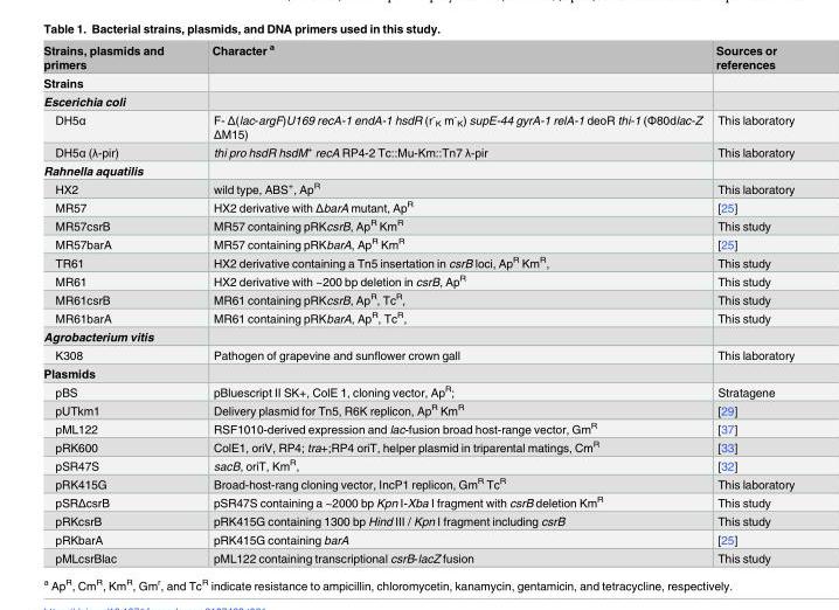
<table><thead><tr><td>Strains, plasmids and primers</td><td>Character <sup>a</sup></td><td>Sources or references</td></tr></thead><tbody><tr><td colspan="3">Strains</td></tr><tr><td colspan="3">Escerichia coli</td></tr><tr><td>DH5α</td><td>F- Δ(lac-argF)U169 recA-1 endA-1 hsdR (r<sup>-</sup> <sub>K</sub> m<sup>-</sup> <sub>K</sub>) supE-44 gyrA-1 relA-1 deoR thi-1 (Φ80dlac-Z ΔM15)</td><td>This laboratory</td></tr><tr><td>DH5α (λ-pir)</td><td>thi pro hsdR hsdM<sup>+</sup> recA RP4-2 Tc::Mu-Km::Tn7 λ-pir</td><td>This laboratory</td></tr><tr><td colspan="3">Rahnella aquatilis</td></tr><tr><td>HX2</td><td>wild type, ABS<sup>+</sup>, Ap<sup>R</sup></td><td>This laboratory</td></tr><tr><td>MR57</td><td>HX2 derivative with ΔbarA mutant, Ap<sup>R</sup></td><td>[25]</td></tr><tr><td>MR57csrB</td><td>MR57 containing pRKcsrB, Ap<sup>R</sup> Km<sup>R</sup></td><td>This study</td></tr><tr><td>MR57barA</td><td>MR57 containing pRKbarA, Ap<sup>R</sup> Km<sup>R</sup></td><td>[25]</td></tr><tr><td>TR61</td><td>HX2 derivative containing a Tn5 insertation in csrB loci, Ap<sup>R</sup> Km<sup>R</sup>,</td><td>This study</td></tr><tr><td>MR61</td><td>HX2 derivative with ~200 bp deletion in csrB, Ap<sup>R</sup></td><td>This study</td></tr><tr><td>MR61csrB</td><td>MR61 containing pRKcsrB, Ap<sup>R</sup>, Tc<sup>R</sup>,</td><td>This study</td></tr><tr><td>MR61barA</td><td>MR61 containing pRKbarA, Ap<sup>R</sup>, Tc<sup>R</sup>,</td><td>This study</td></tr><tr><td colspan="3">Agrobacterium vitis</td></tr><tr><td>K308</td><td>Pathogen of grapevine and sunflower crown gall</td><td>This laboratory</td></tr><tr><td colspan="3">Plasmids</td></tr><tr><td>pBS</td><td>pBluescript II SK+, ColE 1, cloning vector, Ap<sup>R</sup>;</td><td>Stratagene</td></tr><tr><td>pUTkm1</td><td>Delivery plasmid for Tn5, R6K replicon, Ap<sup>R</sup> Km<sup>R</sup></td><td>[29]</td></tr><tr><td>pML122</td><td>RSF1010-derived expression and lac-fusion broad host-range vector, Gm<sup>R</sup></td><td>[37]</td></tr><tr><td>pRK600</td><td>ColE1, oriV, RP4; tra+;RP4 oriT, helper plasmid in triparental matings, Cm<sup>R</sup></td><td>[33]</td></tr><tr><td>pSR47S</td><td>sacB, oriT, Km<sup>R</sup>,</td><td>[32]</td></tr><tr><td>pRK415G</td><td>Broad-host-rang cloning vector, IncP1 replicon, Gm<sup>R</sup> Tc<sup>R</sup></td><td>This laboratory</td></tr><tr><td>pSRΔcsrB</td><td>pSR47S containing a ~2000 bp Kpn I-Xba I fragment with csrB deletion Km<sup>R</sup></td><td>This study</td></tr><tr><td>pRKcsrB</td><td>pRK415G containing 1300 bp Hind III / Kpn I fragment including csrB</td><td>This study</td></tr><tr><td>pRKbarA</td><td>pRK415G containing barA</td><td>[25]</td></tr><tr><td>pMLcsrBlac</td><td>pML122 containing transcriptional csrB-lacZ fusion</td><td>This study</td></tr></tbody></table>